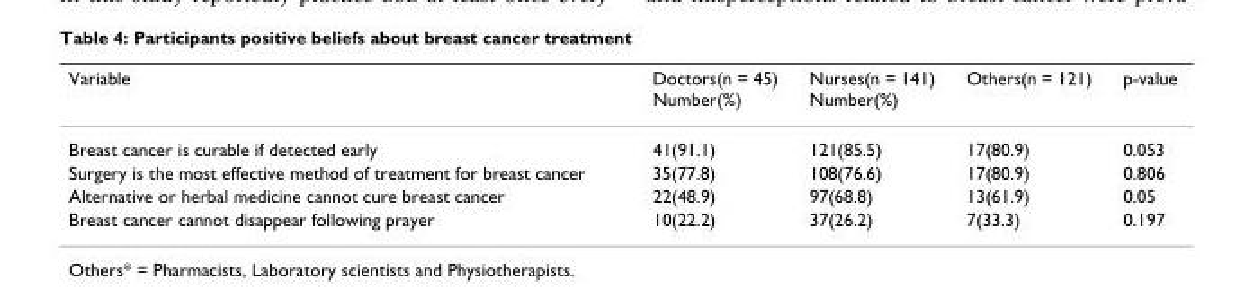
<table><thead><tr><td>Variable</td><td>Doctors(n = 45) Number(%)</td><td>Nurses(n = 141) Number(%)</td><td>Others(n = 121)</td><td>p-value</td></tr></thead><tbody><tr><td>Breast cancer is curable if detected early</td><td>41(91.1)</td><td>121(85.5)</td><td>17(80.9)</td><td>0.053</td></tr><tr><td>Surgery is the most effective method of treatment for breast cancer</td><td>35(77.8)</td><td>108(76.6)</td><td>17(80.9)</td><td>0.806</td></tr><tr><td>Alternative or herbal medicine cannot cure breast cancer</td><td>22(48.9)</td><td>97(68.8)</td><td>13(61.9)</td><td>0.05</td></tr><tr><td>Breast cancer cannot disappear following prayer</td><td>10(22.2)</td><td>37(26.2)</td><td>7(33.3)</td><td>0.197</td></tr></tbody></table>